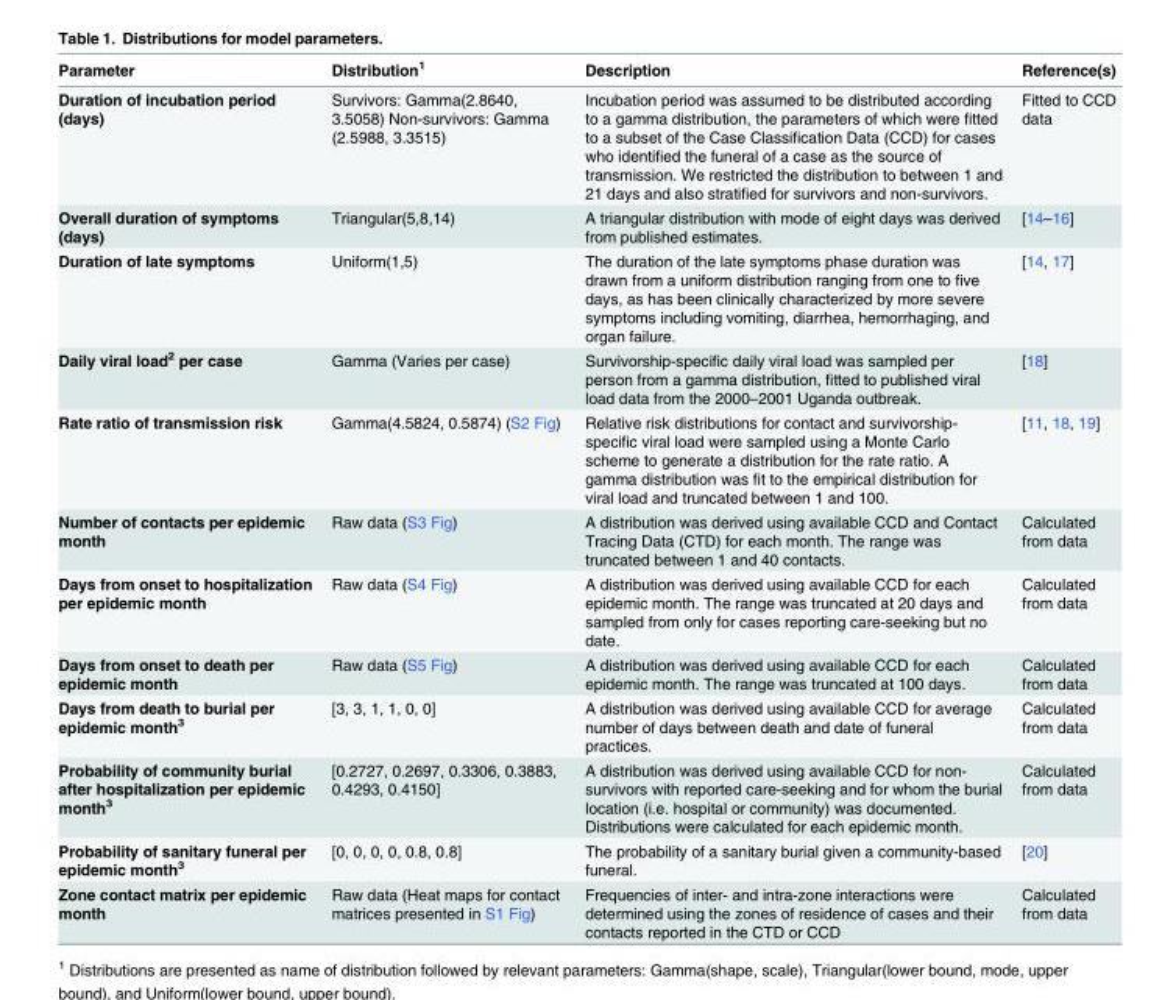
<table><thead><tr><td>Parameter</td><td>Distribution<sup>1</sup></td><td>Description</td><td>Reference(s)</td></tr></thead><tbody><tr><td>Duration of incubation period (days)</td><td>Survivors: Gamma(2.8640, 3.5058) Non-survivors: Gamma (2.5988, 3.3515)</td><td>Incubation period was assumed to be distributed according to a gamma distribution, the parameters of which were fitted to a subset of the Case Classification Data (CCD) for cases who identified the funeral of a case as the source of transmission. We restricted the distribution to between 1 and 21 days and also stratified for survivors and non-survivors.</td><td>Fitted to CCD data</td></tr><tr><td>Overall duration of symptoms (days)</td><td>Triangular(5,8,14)</td><td>A triangular distribution with mode of eight days was derived from published estimates.</td><td>[14–16]</td></tr><tr><td>Duration of late symptoms</td><td>Uniform(1,5)</td><td>The duration of the late symptoms phase duration was drawn from a uniform distribution ranging from one to five days, as has been clinically characterized by more severe symptoms including vomiting, diarrhea, hemorrhaging, and organ failure.</td><td>[14, 17]</td></tr><tr><td>Daily viral load<sup>2</sup> per case</td><td>Gamma (Varies per case)</td><td>Survivorship-specific daily viral load was sampled per person from a gamma distribution, fitted to published viral load data from the 2000–2001 Uganda outbreak.</td><td>[18]</td></tr><tr><td>Rate ratio of transmission risk</td><td>Gamma(4.5824, 0.5874) (S2 Fig)</td><td>Relative risk distributions for contact and survivorship- specific viral load were sampled using a Monte Carlo scheme to generate a distribution for the rate ratio. A gamma distribution was fit to the empirical distribution for viral load and truncated between 1 and 100.</td><td>[11, 18, 19]</td></tr><tr><td>Number of contacts per epidemic month</td><td>Raw data (S3 Fig)</td><td>A distribution was derived using available CCD and Contact Tracing Data (CTD) for each month. The range was truncated between 1 and 40 contacts.</td><td>Calculated from data</td></tr><tr><td>Days from onset to hospitalization per epidemic month</td><td>Raw data (S4 Fig)</td><td>A distribution was derived using available CCD for each epidemic month. The range was truncated at 20 days and sampled from only for cases reporting care-seeking but no date.</td><td>Calculated from data</td></tr><tr><td>Days from onset to death per epidemic month</td><td>Raw data (S5 Fig)</td><td>A distribution was derived using available CCD for each epidemic month. The range was truncated at 100 days.</td><td>Calculated from data</td></tr><tr><td>Days from death to burial per epidemic month<sup>3</sup></td><td>[3, 3, 1, 1, 0, 0]</td><td>A distribution was derived using available CCD for average number of days between death and date of funeral practices.</td><td>Calculated from data</td></tr><tr><td>Probability of community burial after hospitalization per epidemic month<sup>3</sup></td><td>[0.2727, 0.2697, 0.3306, 0.3883, 0.4293, 0.4150]</td><td>A distribution was derived using available CCD for non- survivors with reported care-seeking and for whom the burial location (i.e. hospital or community) was documented. Distributions were calculated for each epidemic month.</td><td>Calculated from data</td></tr><tr><td>Probability of sanitary funeral per epidemic month<sup>3</sup></td><td>[0, 0, 0, 0, 0.8, 0.8]</td><td>The probability of a sanitary burial given a community-based funeral.</td><td>[20]</td></tr><tr><td>Zone contact matrix per epidemic month</td><td>Raw data (Heat maps for contact matrices presented in S1 Fig)</td><td>Frequencies of inter- and intra-zone interactions were determined using the zones of residence of cases and their contacts reported in the CTD or CCD</td><td>Calculated from data</td></tr></tbody></table>